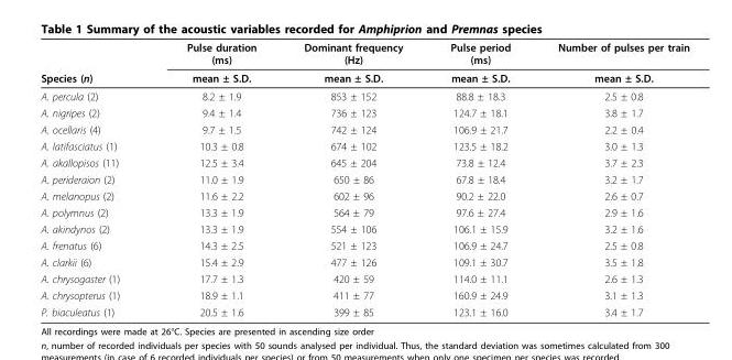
<table><thead><tr><td rowspan="2">Species (n)</td><td rowspan="2">Pulse duration (ms) mean ± S.D.</td><td rowspan="2">Dominant frequency (Hz) mean ± S.D.</td><td rowspan="2">Pulse period (ms) mean ± S.D.</td><td rowspan="2">Number of pulses per train mean ± S.D.</td></tr><tr></tr></thead><tbody><tr><td>A. percula (2)</td><td>8.2 ± 1.9</td><td>853 ± 152</td><td>88.8 ± 18.3</td><td>2.5 ± 0.8</td></tr><tr><td>A. nigripes (2)</td><td>9.4 ± 1.4</td><td>736 ± 123</td><td>124.7 ± 18.1</td><td>3.8 ± 1.7</td></tr><tr><td>A. ocellaris (4)</td><td>9.7 ± 1.5</td><td>742 ± 124</td><td>106.9 ± 21.7</td><td>2.2 ± 0.4</td></tr><tr><td>A. latifasciatus (1)</td><td>10.3 ± 0.8</td><td>674 ± 102</td><td>123.5 ± 18.2</td><td>3.0 ± 1.3</td></tr><tr><td>A. akallopisos (11)</td><td>12.5 ± 3.4</td><td>645 ± 204</td><td>73.8 ± 12.4</td><td>3.7 ± 2.3</td></tr><tr><td>A. perideraion (2)</td><td>11.0 ± 1.9</td><td>650 ± 86</td><td>67.8 ± 18.4</td><td>3.2 ± 1.7</td></tr><tr><td>A. melanopus (2)</td><td>11.6 ± 2.2</td><td>602 ± 96</td><td>90.2 ± 22.0</td><td>2.6 ± 0.7</td></tr><tr><td>A. polymnus (2)</td><td>13.3 ± 1.9</td><td>564 ± 79</td><td>97.6 ± 27.4</td><td>2.9 ± 1.6</td></tr><tr><td>A. akindynos (2)</td><td>13.3 ± 1.9</td><td>554 ± 106</td><td>106.1 ± 15.9</td><td>3.2 ± 1.6</td></tr><tr><td>A. frenatus (6)</td><td>14.3 ± 2.5</td><td>521 ± 123</td><td>106.9 ± 24.7</td><td>2.5 ± 0.8</td></tr><tr><td>A. clarkii (6)</td><td>15.4 ± 2.9</td><td>477 ± 126</td><td>109.1 ± 30.7</td><td>3.5 ± 1.8</td></tr><tr><td>A. chrysogaster (1)</td><td>17.7 ± 1.3</td><td>420 ± 59</td><td>114.0 ± 11.1</td><td>2.6 ± 1.3</td></tr><tr><td>A. chrysopterus (1)</td><td>18.9 ± 1.1</td><td>411 ± 77</td><td>160.9 ± 24.9</td><td>3.1 ± 1.3</td></tr><tr><td>P. biaculeatus (1)</td><td>20.5 ± 1.6</td><td>399 ± 85</td><td>123.1 ± 16.0</td><td>3.4 ± 1.7</td></tr></tbody></table>